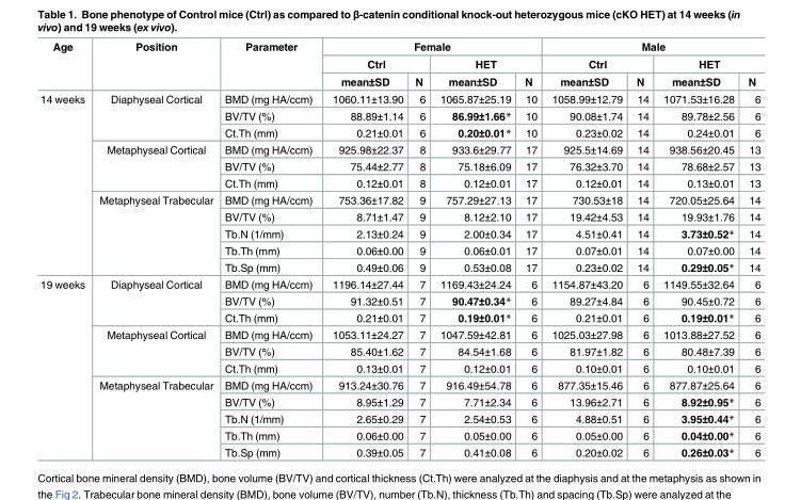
<table><thead><tr><td rowspan="3">Age</td><td rowspan="3">Position</td><td rowspan="3">Parameter</td><td colspan="4">Female</td><td colspan="4">Male</td></tr><tr><td colspan="2">Ctrl</td><td colspan="2">HET</td><td colspan="2">Ctrl</td><td colspan="2">HET</td></tr><tr><td>mean±SD</td><td>N</td><td>mean±SD</td><td>N</td><td>mean±SD</td><td>N</td><td>mean±SD</td><td>N</td></tr></thead><tbody><tr><td rowspan="11">14 weeks</td><td rowspan="3">Diaphyseal Cortical</td><td>BMD (mg HA/ccm)</td><td>1060.11±13.90</td><td>6</td><td>1065.87±25.19</td><td>10</td><td>1058.99±12.79</td><td>14</td><td>1071.53±16.28</td><td>6</td></tr><tr><td>BV/TV (%)</td><td>88.89±1.14</td><td>6</td><td>86.99±1.66*</td><td>10</td><td>90.08±1.74</td><td>14</td><td>89.78±2.56</td><td>6</td></tr><tr><td>Ct.Th (mm)</td><td>0.21±0.01</td><td>6</td><td>0.20±0.01*</td><td>10</td><td>0.23±0.02</td><td>14</td><td>0.24±0.01</td><td>6</td></tr><tr><td rowspan="3">Metaphyseal Cortical</td><td>BMD (mg HA/ccm)</td><td>925.98±22.37</td><td>8</td><td>933.6±29.77</td><td>17</td><td>925.5±14.69</td><td>14</td><td>938.56±20.45</td><td>13</td></tr><tr><td>BV/TV (%)</td><td>75.44±2.77</td><td>8</td><td>75.18±6.09</td><td>17</td><td>76.32±3.70</td><td>14</td><td>78.68±2.57</td><td>13</td></tr><tr><td>Ct.Th (mm)</td><td>0.12±0.01</td><td>8</td><td>0.12±0.01</td><td>17</td><td>0.12±0.01</td><td>14</td><td>0.13±0.01</td><td>13</td></tr><tr><td rowspan="5">Metaphyseal Trabecular</td><td>BMD (mg HA/ccm)</td><td>753.36±17.82</td><td>9</td><td>757.29±27.13</td><td>17</td><td>730.53±18</td><td>14</td><td>720.05±25.64</td><td>14</td></tr><tr><td>BV/TV (%)</td><td>8.71±1.47</td><td>9</td><td>8.12±2.10</td><td>17</td><td>19.42±4.53</td><td>14</td><td>19.93±1.76</td><td>14</td></tr><tr><td>Tb.N (1/mm)</td><td>2.13±0.24</td><td>9</td><td>2.00±0.34</td><td>17</td><td>4.51±0.41</td><td>14</td><td>3.73±0.52*</td><td>14</td></tr><tr><td>Tb.Th (mm)</td><td>0.06±0.00</td><td>9</td><td>0.06±0.01</td><td>17</td><td>0.07±0.01</td><td>14</td><td>0.07±0.00</td><td>14</td></tr><tr><td>Tb.Sp (mm)</td><td>0.49±0.06</td><td>9</td><td>0.53±0.08</td><td>17</td><td>0.23±0.02</td><td>14</td><td>0.29±0.05*</td><td>14</td></tr><tr><td rowspan="11">19 weeks</td><td rowspan="3">Diaphyseal Cortical</td><td>BMD (mg HA/ccm)</td><td>1196.14±27.44</td><td>7</td><td>1169.43±24.24</td><td>6</td><td>1154.87±43.20</td><td>6</td><td>1149.55±32.64</td><td>6</td></tr><tr><td>BV/TV (%)</td><td>91.32±0.51</td><td>7</td><td>90.47±0.34*</td><td>6</td><td>89.27±4.84</td><td>6</td><td>90.45±0.72</td><td>6</td></tr><tr><td>Ct.Th (mm)</td><td>0.21±0.01</td><td>7</td><td>0.19±0.01*</td><td>6</td><td>0.21±0.01</td><td>6</td><td>0.19±0.01*</td><td>6</td></tr><tr><td rowspan="3">Metaphyseal Cortical</td><td>BMD (mg HA/ccm)</td><td>1053.11±24.27</td><td>7</td><td>1047.59±42.81</td><td>6</td><td>1025.03±27.98</td><td>6</td><td>1013.88±27.52</td><td>6</td></tr><tr><td>BV/TV (%)</td><td>85.40±1.62</td><td>7</td><td>84.54±1.68</td><td>6</td><td>81.97±1.82</td><td>6</td><td>80.48±7.39</td><td>6</td></tr><tr><td>Ct.Th (mm)</td><td>0.13±0.01</td><td>7</td><td>0.12±0.01</td><td>6</td><td>0.10±0.01</td><td>6</td><td>0.10±0.01</td><td>6</td></tr><tr><td rowspan="5">Metaphyseal Trabecular</td><td>BMD (mg HA/ccm)</td><td>913.24±30.76</td><td>7</td><td>916.49±54.78</td><td>6</td><td>877.35±15.46</td><td>6</td><td>877.87±25.64</td><td>6</td></tr><tr><td>BV/TV (%)</td><td>8.95±1.29</td><td>7</td><td>7.71±2.34</td><td>6</td><td>13.96±2.71</td><td>6</td><td>8.92±0.95*</td><td>6</td></tr><tr><td>Tb.N (1/mm)</td><td>2.65±0.29</td><td>7</td><td>2.54±0.53</td><td>6</td><td>4.88±0.51</td><td>6</td><td>3.95±0.44*</td><td>6</td></tr><tr><td>Tb.Th (mm)</td><td>0.06±0.00</td><td>7</td><td>0.05±0.00</td><td>6</td><td>0.05±0.00</td><td>6</td><td>0.04±0.00*</td><td>6</td></tr><tr><td>Tb.Sp (mm)</td><td>0.39±0.05</td><td>7</td><td>0.41±0.08</td><td>6</td><td>0.20±0.02</td><td>6</td><td>0.26±0.03*</td><td>6</td></tr></tbody></table>